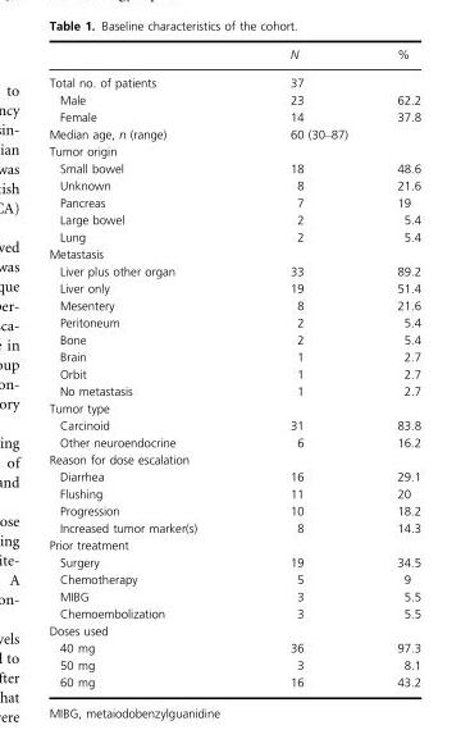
<table><thead><tr><td></td><td>N</td><td>%</td></tr></thead><tbody><tr><td>Total no. of patients</td><td>37</td><td></td></tr><tr><td>Male</td><td>23</td><td>62.2</td></tr><tr><td>Female</td><td>14</td><td>37.8</td></tr><tr><td>Median age, n (range)</td><td>60 (30–87)</td><td></td></tr><tr><td colspan="3">Tumor origin</td></tr><tr><td>Small bowel</td><td>18</td><td>48.6</td></tr><tr><td>Unknown</td><td>8</td><td>21.6</td></tr><tr><td>Pancreas</td><td>7</td><td>19</td></tr><tr><td>Large bowel</td><td>2</td><td>5.4</td></tr><tr><td>Lung</td><td>2</td><td>5.4</td></tr><tr><td colspan="3">Metastasis</td></tr><tr><td>Liver plus other organ</td><td>33</td><td>89.2</td></tr><tr><td>Liver only</td><td>19</td><td>51.4</td></tr><tr><td>Mesentery</td><td>8</td><td>21.6</td></tr><tr><td>Peritoneum</td><td>2</td><td>5.4</td></tr><tr><td>Bone</td><td>2</td><td>5.4</td></tr><tr><td>Brain</td><td>1</td><td>2.7</td></tr><tr><td>Orbit</td><td>1</td><td>2.7</td></tr><tr><td>No metastasis</td><td>1</td><td>2.7</td></tr><tr><td colspan="3">Tumor type</td></tr><tr><td>Carcinoid</td><td>31</td><td>83.8</td></tr><tr><td>Other neuroendocrine</td><td>6</td><td>16.2</td></tr><tr><td colspan="3">Reason for dose escalation</td></tr><tr><td>Diarrhea</td><td>16</td><td>29.1</td></tr><tr><td>Flushing</td><td>11</td><td>20</td></tr><tr><td>Progression</td><td>10</td><td>18.2</td></tr><tr><td>Increased tumor marker(s)</td><td>8</td><td>14.3</td></tr><tr><td colspan="3">Prior treatment</td></tr><tr><td>Surgery</td><td>19</td><td>34.5</td></tr><tr><td>Chemotherapy</td><td>5</td><td>9</td></tr><tr><td>MIBG</td><td>3</td><td>5.5</td></tr><tr><td>Chemoembolization</td><td>3</td><td>5.5</td></tr><tr><td colspan="3">Doses used</td></tr><tr><td>40 mg</td><td>36</td><td>97.3</td></tr><tr><td>50 mg</td><td>3</td><td>8.1</td></tr><tr><td>60 mg</td><td>16</td><td>43.2</td></tr></tbody></table>